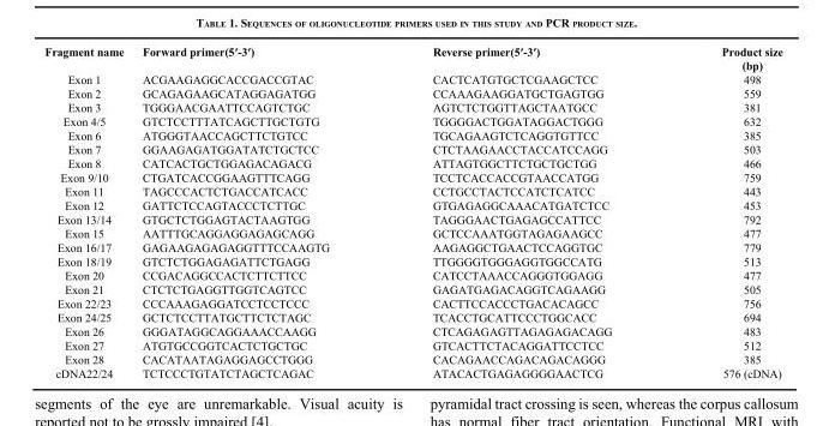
<table><thead><tr><td>Fragment name</td><td>Forward primer(5′-3′)</td><td>Reverse primer(5′-3′)</td><td>Product size (bp)</td></tr></thead><tbody><tr><td>Exon 1</td><td>ACGAAGAGGCACCGACCGTAC</td><td>CACTCATGTGCTCGAAGCTCC</td><td>498</td></tr><tr><td>Exon 2</td><td>GCAGAGAAGCATAGGAGATGG</td><td>CCAAAGAAGGATGCTGAGTGG</td><td>559</td></tr><tr><td>Exon 3</td><td>TGGGAACGAATTCCAGTCTGC</td><td>AGTCTCTGGTTAGCTAATGCC</td><td>381</td></tr><tr><td>Exon 4/5</td><td>GTCTCCTTTATCAGCTTGCTGTG</td><td>TGGGGACTGGATAGGACTGGG</td><td>632</td></tr><tr><td>Exon 6</td><td>ATGGGTAACCAGCTTCTGTCC</td><td>TGCAGAAGTCTCAGGTGTTCC</td><td>385</td></tr><tr><td>Exon 7</td><td>GGAAGAGATGGATATCTGCTCC</td><td>CTCTAAGAACCTACCATCCAGG</td><td>503</td></tr><tr><td>Exon 8</td><td>CATCACTGCTGGAGACAGACG</td><td>ATTAGTGGCTTCTGCTGCTGG</td><td>466</td></tr><tr><td>Exon 9/10</td><td>CTGATCACCGGAAGTTTCAGG</td><td>TCCTCACCACCGTAACCATGG</td><td>759</td></tr><tr><td>Exon 11</td><td>TAGCCCACTCTGACCATCACC</td><td>CCTGCCTACTCCATCTCATCC</td><td>443</td></tr><tr><td>Exon 12</td><td>GATTCTCCAGTACCCTCTTGC</td><td>GTGAGAGGCAAACATGATCTCC</td><td>453</td></tr><tr><td>Exon 13/14</td><td>GTGCTCTGGAGTACTAAGTGG</td><td>TAGGGAACTGAGAGCCATTCC</td><td>792</td></tr><tr><td>Exon 15</td><td>AATTTGCAGGAGGAGAGCAGG</td><td>GCTCCAAATGGTAGAGAAGCC</td><td>477</td></tr><tr><td>Exon 16/17</td><td>GAGAAGAGAGAGGTTTCCAAGTG</td><td>AAGAGGCTGAACTCCAGGTGC</td><td>779</td></tr><tr><td>Exon 18/19</td><td>GTCTCTGGAGAGATTCTGAGG</td><td>TTGGGGTGGGAGGTGGCCATG</td><td>513</td></tr><tr><td>Exon 20</td><td>CCGACAGGCCACTCTTCTTCC</td><td>CATCCTAAACCAGGGTGGAGG</td><td>477</td></tr><tr><td>Exon 21</td><td>CTCTCTGAGGTTGGTCAGTCC</td><td>GAGATGAGACAGGTCAGAAGG</td><td>505</td></tr><tr><td>Exon 22/23</td><td>CCCAAAGAGGATCCTCCTCCC</td><td>CACTTCCACCCTGACACAGCC</td><td>756</td></tr><tr><td>Exon 24/25</td><td>GCTCTCCTTATGCTTCTCTAGC</td><td>TCACCTGCATTCCCTGGCACC</td><td>694</td></tr><tr><td>Exon 26</td><td>GGGATAGGCAGGAAACCAAGG</td><td>CTCAGAGAGTTAGAGAGACAGG</td><td>483</td></tr><tr><td>Exon 27</td><td>ATGTGCCGGTCACTCTGCTGC</td><td>GTCACTTCTACAGGATTCCTCC</td><td>512</td></tr><tr><td>Exon 28</td><td>CACATAATAGAGGAGCCTGGG</td><td>CACAGAACCAGACAGACAGGG</td><td>385</td></tr><tr><td>cDNA22/24</td><td>TCTCCCTGTATCTAGCTCAGAC</td><td>ATACACTGAGAGGGGAACTCG</td><td>576 (cDNA)</td></tr></tbody></table>